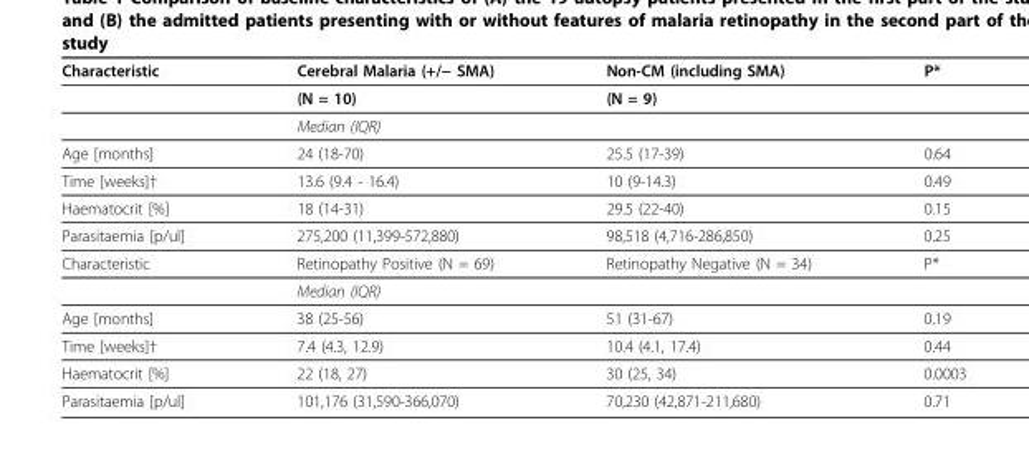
<table><thead><tr><td>Characteristic</td><td>Cerebral Malaria (+/− SMA)</td><td>Non-CM (including SMA)</td><td>P*</td></tr></thead><tbody><tr><td></td><td>(N = 10)</td><td>(N = 9)</td><td></td></tr><tr><td></td><td>Median (IQR)</td><td></td><td></td></tr><tr><td>Age [months]</td><td>24 (18-70)</td><td>25.5 (17-39)</td><td>0.64</td></tr><tr><td>Time [weeks]†</td><td>13.6 (9.4 - 16.4)</td><td>10 (9-14.3)</td><td>0.49</td></tr><tr><td>Haematocrit [%]</td><td>18 (14-31)</td><td>29.5 (22-40)</td><td>0.15</td></tr><tr><td>Parasitaemia [p/ul]</td><td>275,200 (11,399-572,880)</td><td>98,518 (4,716-286,850)</td><td>0.25</td></tr><tr><td rowspan="2">Characteristic</td><td>Retinopathy Positive (N = 69)</td><td>Retinopathy Negative (N = 34)</td><td>P*</td></tr><tr><td>Median (IQR)</td><td></td><td></td></tr><tr><td>Age [months]</td><td>38 (25-56)</td><td>51 (31-67)</td><td>0.19</td></tr><tr><td>Time [weeks]†</td><td>7.4 (4.3, 12.9)</td><td>10.4 (4.1, 17.4)</td><td>0.44</td></tr><tr><td>Haematocrit [%]</td><td>22 (18, 27)</td><td>30 (25, 34)</td><td>0.0003</td></tr><tr><td>Parasitaemia [p/ul]</td><td>101,176 (31,590-366,070)</td><td>70,230 (42,871-211,680)</td><td>0.71</td></tr></tbody></table>